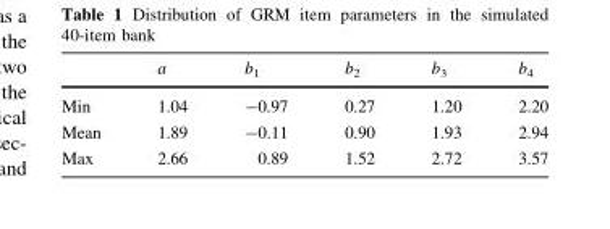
<table><thead><tr><td></td><td>a</td><td>b<sub>1</sub></td><td>b<sub>2</sub></td><td>b<sub>3</sub></td><td>b<sub>4</sub></td></tr></thead><tbody><tr><td>Min</td><td>1.04</td><td>-0.97</td><td>0.27</td><td>1.20</td><td>2.20</td></tr><tr><td>Mean</td><td>1.89</td><td>-0.11</td><td>0.90</td><td>1.93</td><td>2.94</td></tr><tr><td>Max</td><td>2.66</td><td>0.89</td><td>1.52</td><td>2.72</td><td>3.57</td></tr></tbody></table>